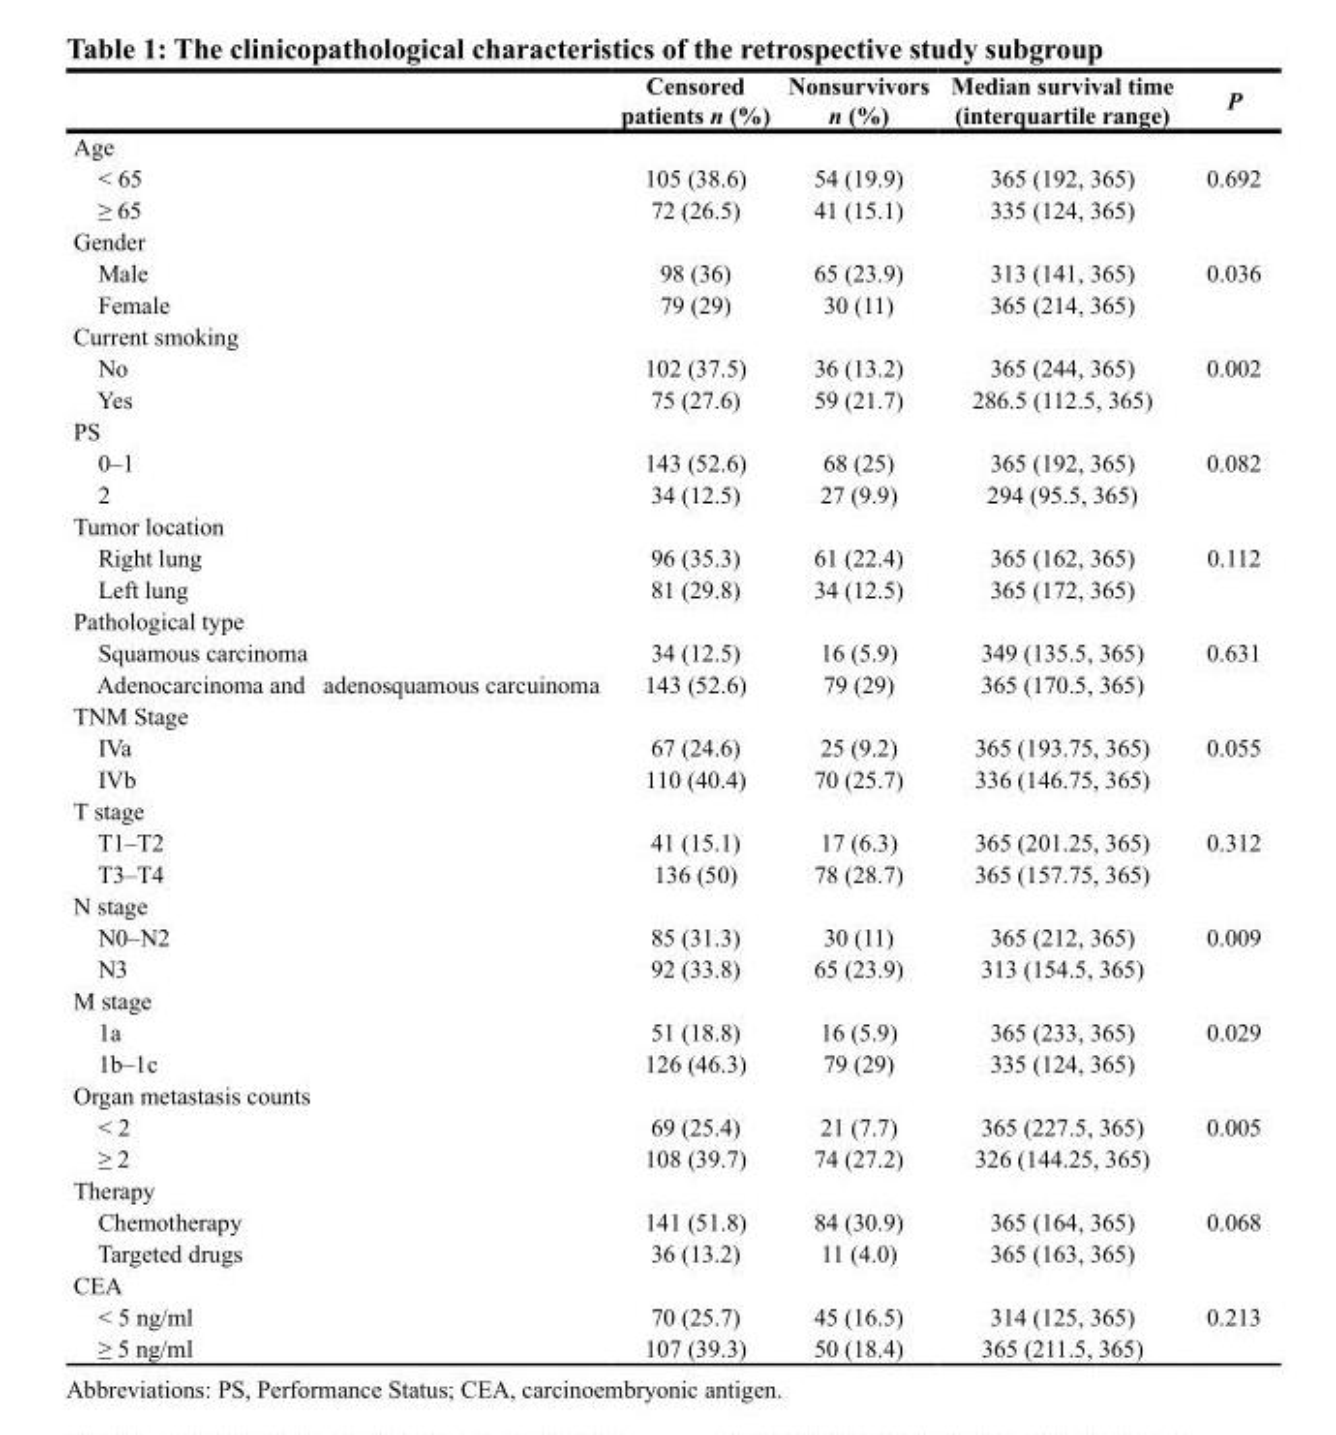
<table><thead><tr><td></td><td>Censored patients n (%)</td><td>Nonsurvivors n (%)</td><td>Median survival time (interquartile range)</td><td>P</td></tr></thead><tbody><tr><td colspan="5">Age</td></tr><tr><td>&lt; 65</td><td>105 (38.6)</td><td>54 (19.9)</td><td>365 (192, 365)</td><td>0.692</td></tr><tr><td>≥ 65</td><td>72 (26.5)</td><td>41 (15.1)</td><td>335 (124, 365)</td><td></td></tr><tr><td colspan="5">Gender</td></tr><tr><td>Male</td><td>98 (36)</td><td>65 (23.9)</td><td>313 (141, 365)</td><td>0.036</td></tr><tr><td>Female</td><td>79 (29)</td><td>30 (11)</td><td>365 (214, 365)</td><td></td></tr><tr><td colspan="5">Current smoking</td></tr><tr><td>No</td><td>102 (37.5)</td><td>36 (13.2)</td><td>365 (244, 365)</td><td>0.002</td></tr><tr><td>Yes</td><td>75 (27.6)</td><td>59 (21.7)</td><td>286.5 (112.5, 365)</td><td></td></tr><tr><td colspan="5">PS</td></tr><tr><td>0–1</td><td>143 (52.6)</td><td>68 (25)</td><td>365 (192, 365)</td><td>0.082</td></tr><tr><td>2</td><td>34 (12.5)</td><td>27 (9.9)</td><td>294 (95.5, 365)</td><td></td></tr><tr><td colspan="5">Tumor location</td></tr><tr><td>Right lung</td><td>96 (35.3)</td><td>61 (22.4)</td><td>365 (162, 365)</td><td>0.112</td></tr><tr><td>Left lung</td><td>81 (29.8)</td><td>34 (12.5)</td><td>365 (172, 365)</td><td></td></tr><tr><td colspan="5">Pathological type</td></tr><tr><td>Squamous carcinoma</td><td>34 (12.5)</td><td>16 (5.9)</td><td>349 (135.5, 365)</td><td>0.631</td></tr><tr><td>Adenocarcinoma and adenosquamous carcuinoma</td><td>143 (52.6)</td><td>79 (29)</td><td>365 (170.5, 365)</td><td></td></tr><tr><td colspan="5">TNM Stage</td></tr><tr><td>IVa</td><td>67 (24.6)</td><td>25 (9.2)</td><td>365 (193.75, 365)</td><td>0.055</td></tr><tr><td>IVb</td><td>110 (40.4)</td><td>70 (25.7)</td><td>336 (146.75, 365)</td><td></td></tr><tr><td colspan="5">T stage</td></tr><tr><td>T1–T2</td><td>41 (15.1)</td><td>17 (6.3)</td><td>365 (201.25, 365)</td><td>0.312</td></tr><tr><td>T3–T4</td><td>136 (50)</td><td>78 (28.7)</td><td>365 (157.75, 365)</td><td></td></tr><tr><td colspan="5">N stage</td></tr><tr><td>N0–N2</td><td>85 (31.3)</td><td>30 (11)</td><td>365 (212, 365)</td><td>0.009</td></tr><tr><td>N3</td><td>92 (33.8)</td><td>65 (23.9)</td><td>313 (154.5, 365)</td><td></td></tr><tr><td colspan="5">M stage</td></tr><tr><td>1a</td><td>51 (18.8)</td><td>16 (5.9)</td><td>365 (233, 365)</td><td>0.029</td></tr><tr><td>1b–1c</td><td>126 (46.3)</td><td>79 (29)</td><td>335 (124, 365)</td><td></td></tr><tr><td colspan="5">Organ metastasis counts</td></tr><tr><td>&lt; 2</td><td>69 (25.4)</td><td>21 (7.7)</td><td>365 (227.5, 365)</td><td>0.005</td></tr><tr><td>≥ 2</td><td>108 (39.7)</td><td>74 (27.2)</td><td>326 (144.25, 365)</td><td></td></tr><tr><td colspan="5">Therapy</td></tr><tr><td>Chemotherapy</td><td>141 (51.8)</td><td>84 (30.9)</td><td>365 (164, 365)</td><td>0.068</td></tr><tr><td>Targeted drugs</td><td>36 (13.2)</td><td>11 (4.0)</td><td>365 (163, 365)</td><td></td></tr><tr><td colspan="5">CEA</td></tr><tr><td>&lt; 5 ng/ml</td><td>70 (25.7)</td><td>45 (16.5)</td><td>314 (125, 365)</td><td>0.213</td></tr><tr><td>≥ 5 ng/ml</td><td>107 (39.3)</td><td>50 (18.4)</td><td>365 (211.5, 365)</td><td></td></tr></tbody></table>